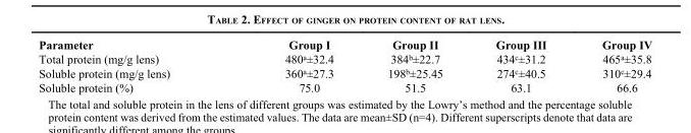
<table><thead><tr><td>Parameter</td><td>Group I</td><td>Group II</td><td>Group III</td><td>Group IV</td></tr></thead><tbody><tr><td>Total protein (mg/g lens)</td><td>480<sup>a</sup>±32.4</td><td>384<sup>b</sup>±22.7</td><td>434<sup>c</sup>±31.2</td><td>465<sup>a</sup>±35.8</td></tr><tr><td>Soluble protein (mg/g lens)</td><td>360<sup>a</sup>±27.3</td><td>198<sup>b</sup>±25.45</td><td>274<sup>c</sup>±40.5</td><td>310<sup>c</sup>±29.4</td></tr><tr><td>Soluble protein (%)</td><td>75.0</td><td>51.5</td><td>63.1</td><td>66.6</td></tr></tbody></table>